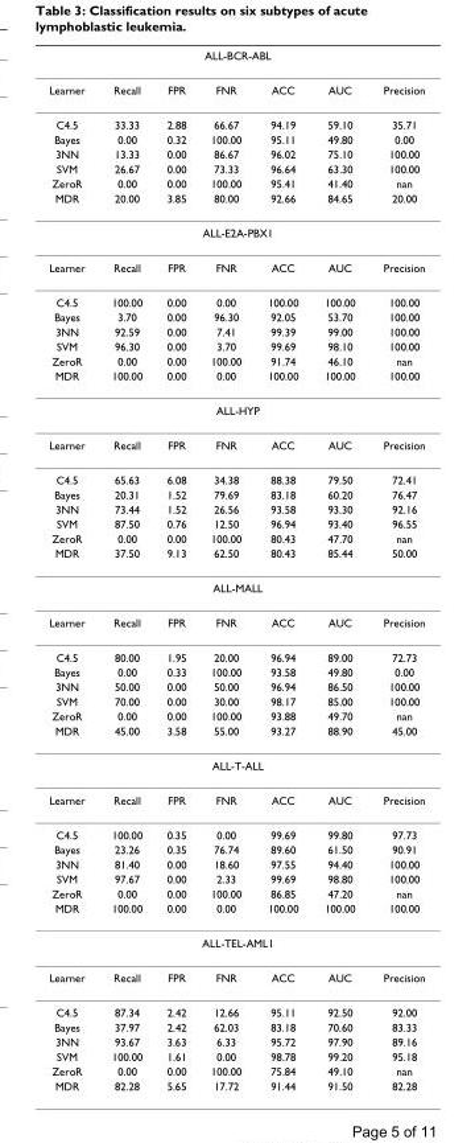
<table><thead><tr><td colspan="7">ALL-BCR-ABL</td></tr><tr><td>Learner</td><td>Recall</td><td>FPR</td><td>FNR</td><td>ACC</td><td>AUC</td><td>Precision</td></tr></thead><tbody><tr><td>C4.5</td><td>33.33</td><td>2.88</td><td>66.67</td><td>94.19</td><td>59.10</td><td>35.71</td></tr><tr><td>Bayes</td><td>0.00</td><td>0.32</td><td>100.00</td><td>95.11</td><td>49.80</td><td>0.00</td></tr><tr><td>3NN</td><td>13.33</td><td>0.00</td><td>86.67</td><td>96.02</td><td>75.10</td><td>100.00</td></tr><tr><td>SVM</td><td>26.67</td><td>0.00</td><td>73.33</td><td>96.64</td><td>63.30</td><td>100.00</td></tr><tr><td>ZeroR</td><td>0.00</td><td>0.00</td><td>100.00</td><td>95.41</td><td>41.40</td><td>nan</td></tr><tr><td>MDR</td><td>20.00</td><td>3.85</td><td>80.00</td><td>92.66</td><td>84.65</td><td>20.00</td></tr><tr><td colspan="7">ALL-E2A-PBX1</td></tr><tr><td>Learner</td><td>Recall</td><td>FPR</td><td>FNR</td><td>ACC</td><td>AUC</td><td>Precision</td></tr><tr><td>C4.5</td><td>100.00</td><td>0.00</td><td>0.00</td><td>100.00</td><td>100.00</td><td>100.00</td></tr><tr><td>Bayes</td><td>3.70</td><td>0.00</td><td>96.30</td><td>92.05</td><td>53.70</td><td>100.00</td></tr><tr><td>3NN</td><td>92.59</td><td>0.00</td><td>7.41</td><td>99.39</td><td>99.00</td><td>100.00</td></tr><tr><td>SVM</td><td>96.30</td><td>0.00</td><td>3.70</td><td>99.69</td><td>98.10</td><td>100.00</td></tr><tr><td>ZeroR</td><td>0.00</td><td>0.00</td><td>100.00</td><td>91.74</td><td>46.10</td><td>nan</td></tr><tr><td>MDR</td><td>100.00</td><td>0.00</td><td>0.00</td><td>100.00</td><td>100.00</td><td>100.00</td></tr><tr><td colspan="7">ALL-HYP</td></tr><tr><td>Learner</td><td>Recall</td><td>FPR</td><td>FNR</td><td>ACC</td><td>AUC</td><td>Precision</td></tr><tr><td>C4.5</td><td>65.63</td><td>6.08</td><td>34.38</td><td>88.38</td><td>79.50</td><td>72.41</td></tr><tr><td>Bayes</td><td>20.31</td><td>1.52</td><td>79.69</td><td>83.18</td><td>60.20</td><td>76.47</td></tr><tr><td>3NN</td><td>73.44</td><td>1.52</td><td>26.56</td><td>93.58</td><td>93.30</td><td>92.16</td></tr><tr><td>SVM</td><td>87.50</td><td>0.76</td><td>12.50</td><td>96.94</td><td>93.40</td><td>96.55</td></tr><tr><td>ZeroR</td><td>0.00</td><td>0.00</td><td>100.00</td><td>80.43</td><td>47.70</td><td>nan</td></tr><tr><td>MDR</td><td>37.50</td><td>9.13</td><td>62.50</td><td>80.43</td><td>85.44</td><td>50.00</td></tr><tr><td colspan="7">ALL-MALL</td></tr><tr><td>Learner</td><td>Recall</td><td>FPR</td><td>FNR</td><td>ACC</td><td>AUC</td><td>Precision</td></tr><tr><td>C4.5</td><td>80.00</td><td>1.95</td><td>20.00</td><td>96.94</td><td>89.00</td><td>72.73</td></tr><tr><td>Bayes</td><td>0.00</td><td>0.33</td><td>100.00</td><td>93.58</td><td>49.80</td><td>0.00</td></tr><tr><td>3NN</td><td>50.00</td><td>0.00</td><td>50.00</td><td>96.94</td><td>86.50</td><td>100.00</td></tr><tr><td>SVM</td><td>70.00</td><td>0.00</td><td>30.00</td><td>98.17</td><td>85.00</td><td>100.00</td></tr><tr><td>ZeroR</td><td>0.00</td><td>0.00</td><td>100.00</td><td>93.88</td><td>49.70</td><td>nan</td></tr><tr><td>MDR</td><td>45.00</td><td>3.58</td><td>55.00</td><td>93.27</td><td>88.90</td><td>45.00</td></tr><tr><td colspan="7">ALL-T-ALL</td></tr><tr><td>Learner</td><td>Recall</td><td>FPR</td><td>FNR</td><td>ACC</td><td>AUC</td><td>Precision</td></tr><tr><td>C4.5</td><td>100.00</td><td>0.35</td><td>0.00</td><td>99.69</td><td>99.80</td><td>97.73</td></tr><tr><td>Bayes</td><td>23.26</td><td>0.35</td><td>76.74</td><td>89.60</td><td>61.50</td><td>90.91</td></tr><tr><td>3NN</td><td>81.40</td><td>0.00</td><td>18.60</td><td>97.55</td><td>94.40</td><td>100.00</td></tr><tr><td>SVM</td><td>97.67</td><td>0.00</td><td>2.33</td><td>99.69</td><td>98.80</td><td>100.00</td></tr><tr><td>ZeroR</td><td>0.00</td><td>0.00</td><td>100.00</td><td>86.85</td><td>47.20</td><td>nan</td></tr><tr><td>MDR</td><td>100.00</td><td>0.00</td><td>0.00</td><td>100.00</td><td>100.00</td><td>100.00</td></tr><tr><td colspan="7">ALL-TEL-AML1</td></tr><tr><td>Learner</td><td>Recall</td><td>FPR</td><td>FNR</td><td>ACC</td><td>AUC</td><td>Precision</td></tr><tr><td>C4.5</td><td>87.34</td><td>2.42</td><td>12.66</td><td>95.11</td><td>92.50</td><td>92.00</td></tr><tr><td>Bayes</td><td>37.97</td><td>2.42</td><td>62.03</td><td>83.18</td><td>70.60</td><td>83.33</td></tr><tr><td>3NN</td><td>93.67</td><td>3.63</td><td>6.33</td><td>95.72</td><td>97.90</td><td>89.16</td></tr><tr><td>SVM</td><td>100.00</td><td>1.61</td><td>0.00</td><td>98.78</td><td>99.20</td><td>95.18</td></tr><tr><td>ZeroR</td><td>0.00</td><td>0.00</td><td>100.00</td><td>75.84</td><td>49.10</td><td>nan</td></tr><tr><td>MDR</td><td>82.28</td><td>5.65</td><td>17.72</td><td>91.44</td><td>91.50</td><td>82.28</td></tr></tbody></table>